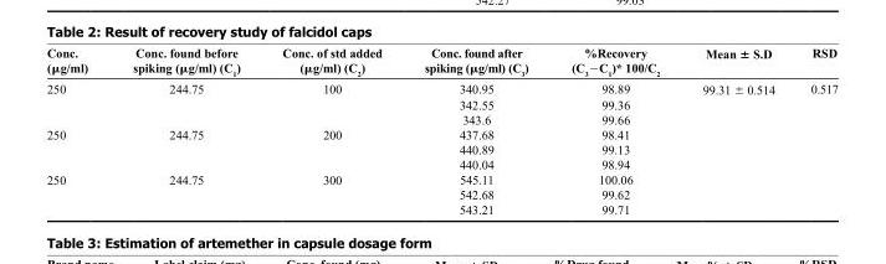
<table><thead><tr><td>Conc. (μg/ml)</td><td>Conc. found before spiking (μg/ml) (C<sub>1</sub>)</td><td>Conc. of std added (μg/ml) (C<sub>2</sub>)</td><td>Conc. found after spiking (μg/ml) (C<sub>3</sub>)</td><td>%Recovery (C<sub>3</sub>–C<sub>1</sub>)* 100/C<sub>2</sub></td><td>Mean ± S.D</td><td>RSD</td></tr></thead><tbody><tr><td rowspan="3">250</td><td>244.75</td><td>100</td><td>340.95</td><td>98.89</td><td>99.31 ± 0.514</td><td>0.517</td></tr><tr><td></td><td></td><td>342.55</td><td>99.36</td><td></td><td></td></tr><tr><td></td><td></td><td>343.6</td><td>99.66</td><td></td><td></td></tr><tr><td rowspan="3">250</td><td>244.75</td><td>200</td><td>437.68</td><td>98.41</td><td></td><td></td></tr><tr><td></td><td></td><td>440.89</td><td>99.13</td><td></td><td></td></tr><tr><td></td><td></td><td>440.04</td><td>98.94</td><td></td><td></td></tr><tr><td rowspan="3">250</td><td>244.75</td><td>300</td><td>545.11</td><td>100.06</td><td></td><td></td></tr><tr><td></td><td></td><td>542.68</td><td>99.62</td><td></td><td></td></tr><tr><td></td><td></td><td>543.21</td><td>99.71</td><td></td><td></td></tr></tbody></table>